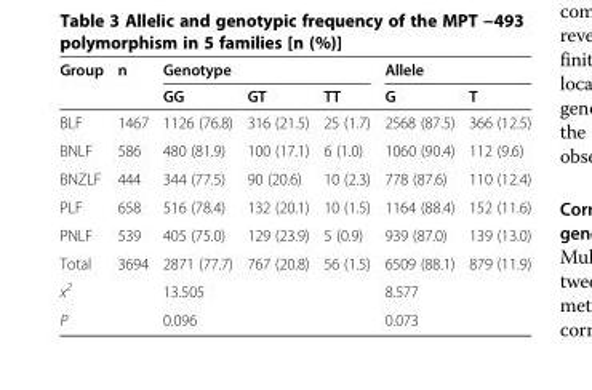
<table><thead><tr><td rowspan="2">Group</td><td rowspan="2">n</td><td colspan="3">Genotype</td><td colspan="2">Allele</td></tr><tr><td>GG</td><td>GT</td><td>TT</td><td>G</td><td>T</td></tr></thead><tbody><tr><td>BLF</td><td>1467</td><td>1126 (76.8)</td><td>316 (21.5)</td><td>25 (1.7)</td><td>2568 (87.5)</td><td>366 (12.5)</td></tr><tr><td>BNLF</td><td>586</td><td>480 (81.9)</td><td>100 (17.1)</td><td>6 (1.0)</td><td>1060 (90.4)</td><td>112 (9.6)</td></tr><tr><td>BNZLF</td><td>444</td><td>344 (77.5)</td><td>90 (20.6)</td><td>10 (2.3)</td><td>778 (87.6)</td><td>110 (12.4)</td></tr><tr><td>PLF</td><td>658</td><td>516 (78.4)</td><td>132 (20.1)</td><td>10 (1.5)</td><td>1164 (88.4)</td><td>152 (11.6)</td></tr><tr><td>PNLF</td><td>539</td><td>405 (75.0)</td><td>129 (23.9)</td><td>5 (0.9)</td><td>939 (87.0)</td><td>139 (13.0)</td></tr><tr><td>Total</td><td>3694</td><td>2871 (77.7)</td><td>767 (20.8)</td><td>56 (1.5)</td><td>6509 (88.1)</td><td>879 (11.9)</td></tr><tr><td colspan="2">x<sup>2</sup></td><td colspan="3">13.505</td><td colspan="2">8.577</td></tr><tr><td colspan="2">P</td><td colspan="3">0.096</td><td colspan="2">0.073</td></tr></tbody></table>